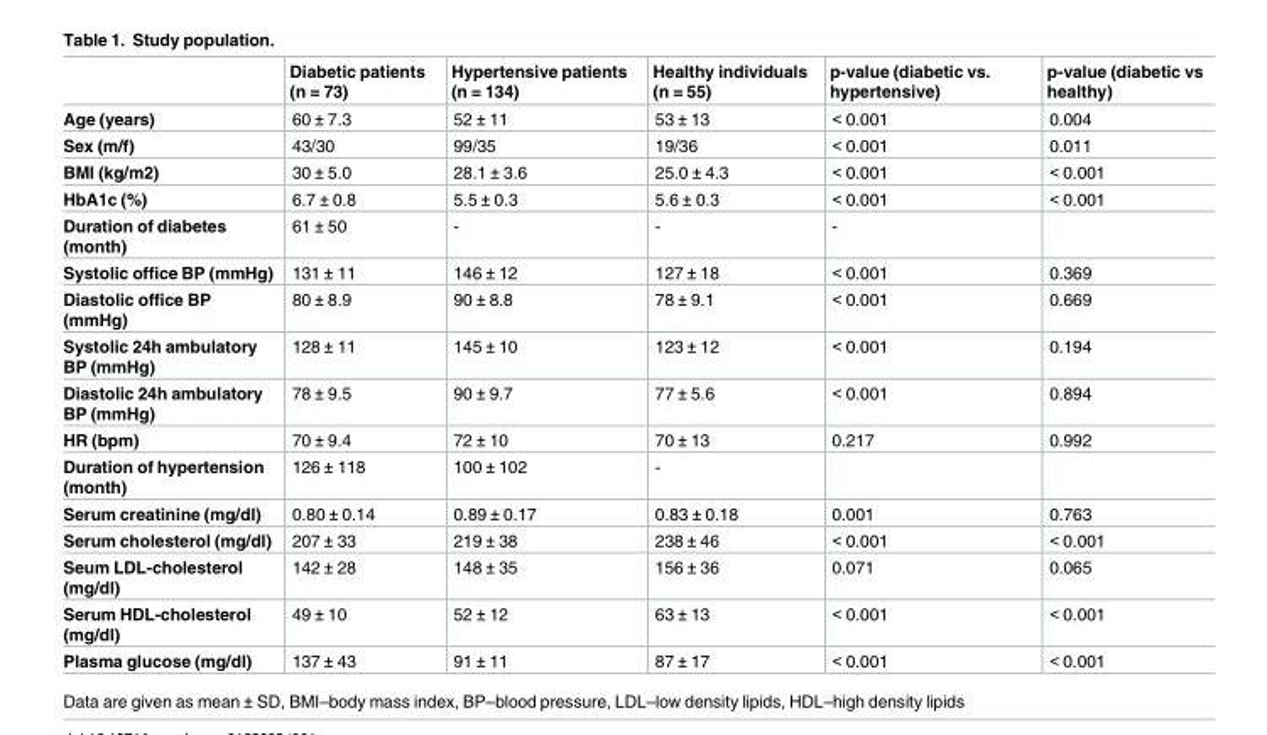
<table><thead><tr><td></td><td>Diabetic patients (n = 73)</td><td>Hypertensive patients (n = 134)</td><td>Healthy individuals (n = 55)</td><td>p-value (diabetic vs. hypertensive)</td><td>p-value (diabetic vs healthy)</td></tr></thead><tbody><tr><td>Age (years)</td><td>60 ± 7.3</td><td>52 ± 11</td><td>53 ± 13</td><td>&lt; 0.001</td><td>0.004</td></tr><tr><td>Sex (m/f)</td><td>43/30</td><td>99/35</td><td>19/36</td><td>&lt; 0.001</td><td>0.011</td></tr><tr><td>BMI (kg/m2)</td><td>30 ± 5.0</td><td>28.1 ± 3.6</td><td>25.0 ± 4.3</td><td>&lt; 0.001</td><td>&lt; 0.001</td></tr><tr><td>HbA1c (%)</td><td>6.7 ± 0.8</td><td>5.5 ± 0.3</td><td>5.6 ± 0.3</td><td>&lt; 0.001</td><td>&lt; 0.001</td></tr><tr><td>Duration of diabetes (month)</td><td>61 ± 50</td><td>-</td><td>-</td><td>-</td><td></td></tr><tr><td>Systolic office BP (mmHg)</td><td>131 ± 11</td><td>146 ± 12</td><td>127 ± 18</td><td>&lt; 0.001</td><td>0.369</td></tr><tr><td>Diastolic office BP (mmHg)</td><td>80 ± 8.9</td><td>90 ± 8.8</td><td>78 ± 9.1</td><td>&lt; 0.001</td><td>0.669</td></tr><tr><td>Systolic 24h ambulatory BP (mmHg)</td><td>128 ± 11</td><td>145 ± 10</td><td>123 ± 12</td><td>&lt; 0.001</td><td>0.194</td></tr><tr><td>Diastolic 24h ambulatory BP (mmHg)</td><td>78 ± 9.5</td><td>90 ± 9.7</td><td>77 ± 5.6</td><td>&lt; 0.001</td><td>0.894</td></tr><tr><td>HR (bpm)</td><td>70 ± 9.4</td><td>72 ± 10</td><td>70 ± 13</td><td>0.217</td><td>0.992</td></tr><tr><td>Duration of hypertension (month)</td><td>126 ± 118</td><td>100 ± 102</td><td>-</td><td></td><td></td></tr><tr><td>Serum creatinine (mg/dl)</td><td>0.80 ± 0.14</td><td>0.89 ± 0.17</td><td>0.83 ± 0.18</td><td>0.001</td><td>0.763</td></tr><tr><td>Serum cholesterol (mg/dl)</td><td>207 ± 33</td><td>219 ± 38</td><td>238 ± 46</td><td>&lt; 0.001</td><td>&lt; 0.001</td></tr><tr><td>Seum LDL-cholesterol (mg/dl)</td><td>142 ± 28</td><td>148 ± 35</td><td>156 ± 36</td><td>0.071</td><td>0.065</td></tr><tr><td>Serum HDL-cholesterol (mg/dl)</td><td>49 ± 10</td><td>52 ± 12</td><td>63 ± 13</td><td>&lt; 0.001</td><td>&lt; 0.001</td></tr><tr><td>Plasma glucose (mg/dl)</td><td>137 ± 43</td><td>91 ± 11</td><td>87 ± 17</td><td>&lt; 0.001</td><td>&lt; 0.001</td></tr></tbody></table>